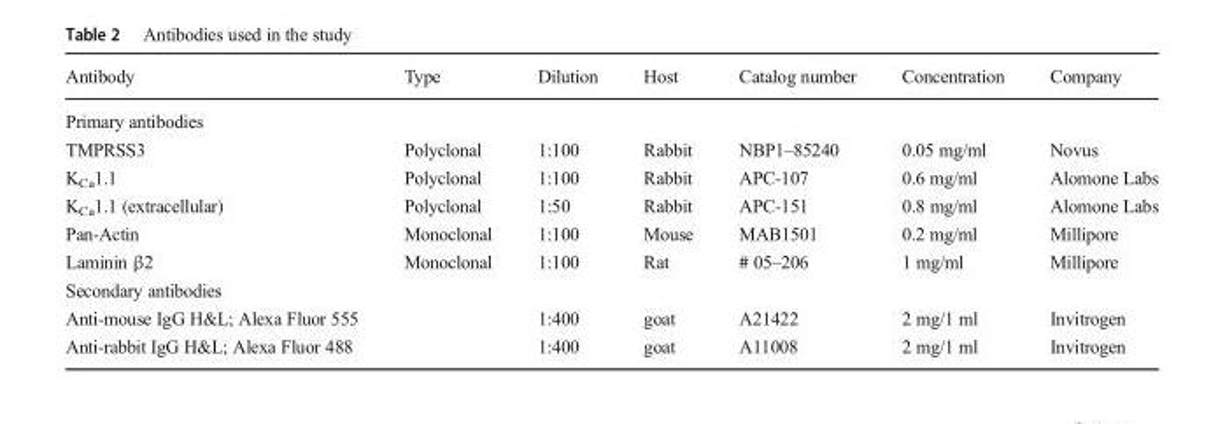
<table><thead><tr><td>Antibody</td><td>Type</td><td>Dilution</td><td>Host</td><td>Catalog number</td><td>Concentration</td><td>Company</td></tr></thead><tbody><tr><td colspan="7">Primary antibodies</td></tr><tr><td>TMPRSS3</td><td>Polyclonal</td><td>1:100</td><td>Rabbit</td><td>NBP1–85240</td><td>0.05 mg/ml</td><td>Novus</td></tr><tr><td>K<sub>Ca</sub>1.1</td><td>Polyclonal</td><td>1:100</td><td>Rabbit</td><td>APC-107</td><td>0.6 mg/ml</td><td>Alomone Labs</td></tr><tr><td>K<sub>Ca</sub>1.1 (extracellular)</td><td>Polyclonal</td><td>1:50</td><td>Rabbit</td><td>APC-151</td><td>0.8 mg/ml</td><td>Alomone Labs</td></tr><tr><td>Pan-Actin</td><td>Monoclonal</td><td>1:100</td><td>Mouse</td><td>MAB1501</td><td>0.2 mg/ml</td><td>Millipore</td></tr><tr><td>Laminin β2</td><td>Monoclonal</td><td>1:100</td><td>Rat</td><td># 05–206</td><td>1 mg/ml</td><td>Millipore</td></tr><tr><td colspan="7">Secondary antibodies</td></tr><tr><td>Anti-mouse IgG H&amp;L; Alexa Fluor 555</td><td></td><td>1:400</td><td>goat</td><td>A21422</td><td>2 mg/1 ml</td><td>Invitrogen</td></tr><tr><td>Anti-rabbit IgG H&amp;L; Alexa Fluor 488</td><td></td><td>1:400</td><td>goat</td><td>A11008</td><td>2 mg/1 ml</td><td>Invitrogen</td></tr></tbody></table>